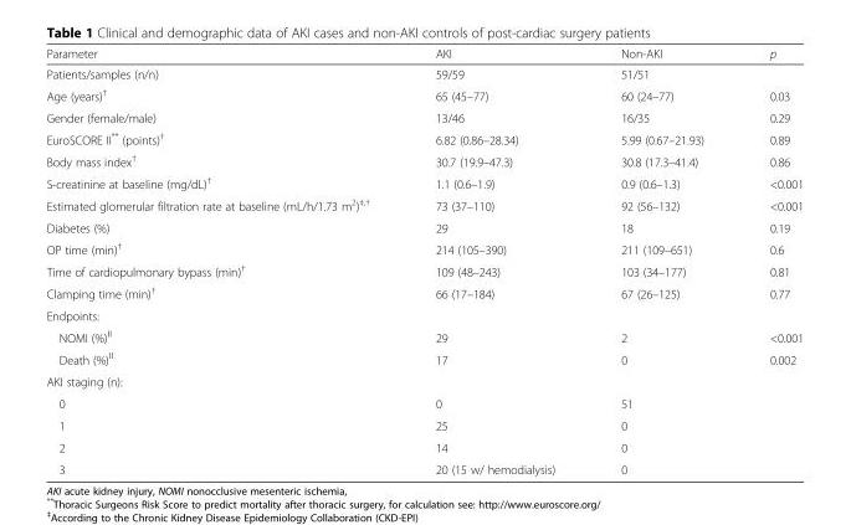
<table><thead><tr><td>Parameter</td><td>AKI</td><td>Non-AKI</td><td>p</td></tr></thead><tbody><tr><td>Patients/samples (n/n)</td><td>59/59</td><td>51/51</td><td></td></tr><tr><td>Age (years)<sup>†</sup></td><td>65 (45–77)</td><td>60 (24–77)</td><td>0.03</td></tr><tr><td>Gender (female/male)</td><td>13/46</td><td>16/35</td><td>0.29</td></tr><tr><td>EuroSCORE II** (points)<sup>†</sup></td><td>6.82 (0.86–28.34)</td><td>5.99 (0.67–21.93)</td><td>0.89</td></tr><tr><td>Body mass index<sup>†</sup></td><td>30.7 (19.9–47.3)</td><td>30.8 (17.3–41.4)</td><td>0.86</td></tr><tr><td>S-creatinine at baseline (mg/dL)<sup>†</sup></td><td>1.1 (0.6–1.9)</td><td>0.9 (0.6–1.3)</td><td>&lt;0.001</td></tr><tr><td>Estimated glomerular filtration rate at baseline (mL/h/1.73 m<sup>2</sup>)<sup>‡,†</sup></td><td>73 (37–110)</td><td>92 (56–132)</td><td>&lt;0.001</td></tr><tr><td>Diabetes (%)</td><td>29</td><td>18</td><td>0.19</td></tr><tr><td>OP time (min)<sup>†</sup></td><td>214 (105–390)</td><td>211 (109–651)</td><td>0.6</td></tr><tr><td>Time of cardiopulmonary bypass (min)<sup>†</sup></td><td>109 (48–243)</td><td>103 (34–177)</td><td>0.81</td></tr><tr><td>Clamping time (min)<sup>†</sup></td><td>66 (17–184)</td><td>67 (26–125)</td><td>0.77</td></tr><tr><td colspan="4">Endpoints:</td></tr><tr><td>NOMI (%)<sup>ǁ</sup></td><td>29</td><td>2</td><td>&lt;0.001</td></tr><tr><td>Death (%)<sup>ǁ</sup></td><td>17</td><td>0</td><td>0.002</td></tr><tr><td colspan="4">AKI staging (n):</td></tr><tr><td>0</td><td>0</td><td>51</td><td></td></tr><tr><td>1</td><td>25</td><td>0</td><td></td></tr><tr><td>2</td><td>14</td><td>0</td><td></td></tr><tr><td>3</td><td>20 (15 w/ hemodialysis)</td><td>0</td><td></td></tr></tbody></table>